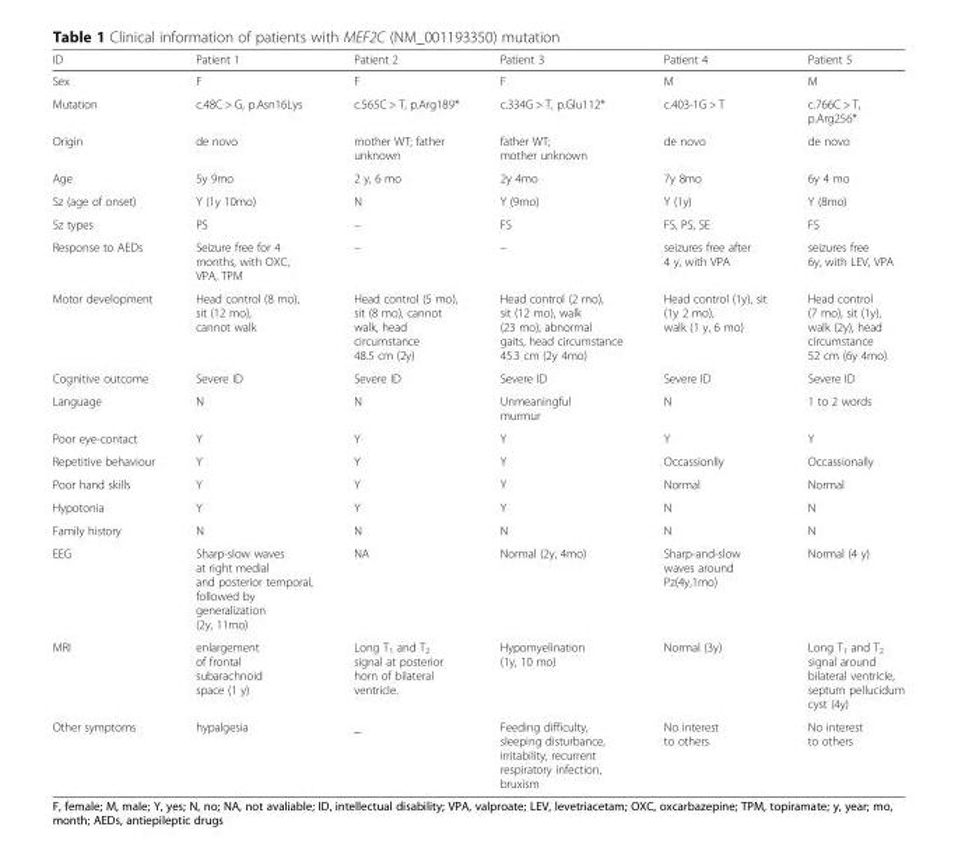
<table><thead><tr><td>ID</td><td>Patient 1</td><td>Patient 2</td><td>Patient 3</td><td>Patient 4</td><td>Patient 5</td></tr></thead><tbody><tr><td>Sex</td><td>F</td><td>F</td><td>F</td><td>M</td><td>M</td></tr><tr><td>Mutation</td><td>c.48C &gt; G, p.Asn16Lys</td><td>c.565C &gt; T, p.Arg189*</td><td>c.334G &gt; T, p.Glu112*</td><td>c.403-1G &gt; T</td><td>c.766C &gt; T, p.Arg256*</td></tr><tr><td>Origin</td><td>de novo</td><td>mother WT; father unknown</td><td>father WT; mother unknown</td><td>de novo</td><td>de novo</td></tr><tr><td>Age</td><td>5y 9mo</td><td>2 y, 6 mo</td><td>2y 4mo</td><td>7y 8mo</td><td>6y 4 mo</td></tr><tr><td>Sz (age of onset)</td><td>Y (1y 10mo)</td><td>N</td><td>Y (9mo)</td><td>Y (1y)</td><td>Y (8mo)</td></tr><tr><td>Sz types</td><td>PS</td><td>–</td><td>FS</td><td>FS, PS, SE</td><td>FS</td></tr><tr><td>Response to AEDs</td><td>Seizure free for 4 months, with OXC, VPA, TPM</td><td>–</td><td>–</td><td>seizures free after 4 y, with VPA</td><td>seizures free 6y, with LEV, VPA</td></tr><tr><td>Motor development</td><td>Head control (8 mo), sit (12 mo), cannot walk</td><td>Head control (5 mo), sit (8 mo), cannot walk, head circumstance 48.5 cm (2y)</td><td>Head control (2 mo), sit (12 mo), walk (23 mo), abnormal gaits, head circumstance 45.3 cm (2y 4mo)</td><td>Head control (1y), sit (1y 2 mo), walk (1 y, 6 mo)</td><td>Head control (7 mo), sit (1y), walk (2y), head circumstance 52 cm (6y 4mo)</td></tr><tr><td>Cognitive outcome</td><td>Severe ID</td><td>Severe ID</td><td>Severe ID</td><td>Severe ID</td><td>Severe ID</td></tr><tr><td>Language</td><td>N</td><td>N</td><td>Unmeaningful murmur</td><td>N</td><td>1 to 2 words</td></tr><tr><td>Poor eye-contact</td><td>Y</td><td>Y</td><td>Y</td><td>Y</td><td>Y</td></tr><tr><td>Repetitive behaviour</td><td>Y</td><td>Y</td><td>Y</td><td>Occassionlly</td><td>Occassionally</td></tr><tr><td>Poor hand skills</td><td>Y</td><td>Y</td><td>Y</td><td>Normal</td><td>Normal</td></tr><tr><td>Hypotonia</td><td>Y</td><td>Y</td><td>Y</td><td>N</td><td>N</td></tr><tr><td>Family history</td><td>N</td><td>N</td><td>N</td><td>N</td><td>N</td></tr><tr><td>EEG</td><td>Sharp-slow waves at right medial and posterior temporal, followed by generalization (2y, 11mo)</td><td>NA</td><td>Normal (2y, 4mo)</td><td>Sharp-and-slow waves around Pz(4y,1mo)</td><td>Normal (4 y)</td></tr><tr><td>MRI</td><td>enlargement of frontal subarachnoid space (1 y)</td><td>Long T<sub>1</sub> and T<sub>2</sub> signal at posterior horn of bilateral ventricle.</td><td>Hypomyelination (1y, 10 mo)</td><td>Normal (3y)</td><td>Long T<sub>1</sub> and T<sub>2</sub> signal around bilateral ventricle, septum pellucidum cyst (4y)</td></tr><tr><td>Other symptoms</td><td>hypalgesia</td><td>_</td><td>Feeding difficulty, sleeping disturbance, irritability, recurrent respiratory infection, bruxism</td><td>No interest to others</td><td>No interest to others</td></tr></tbody></table>